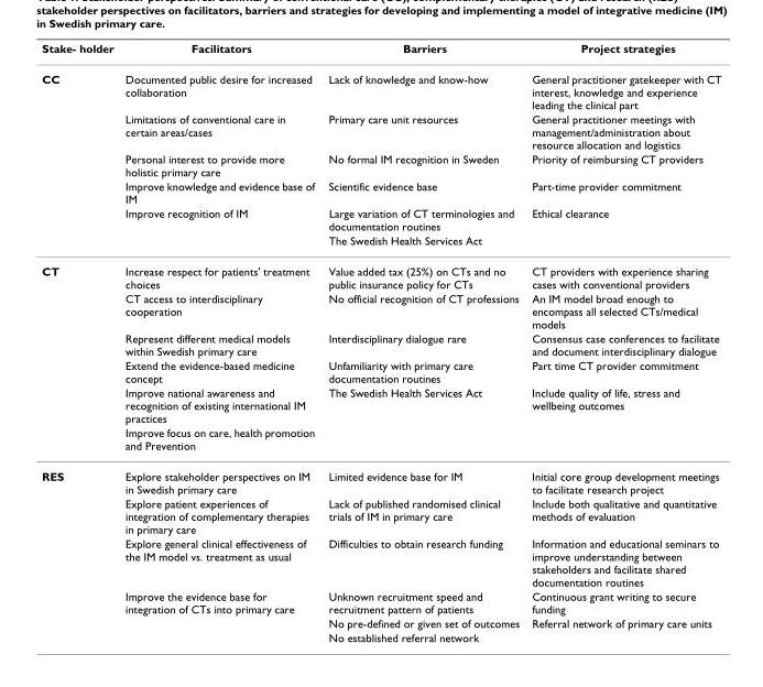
<table><thead><tr><td>Stake- holder</td><td>Facilitators</td><td>Barriers</td><td>Project strategies</td></tr></thead><tbody><tr><td rowspan="6">CC</td><td>Documented public desire for increased collaboration</td><td>Lack of knowledge and know-how</td><td>General practitioner gatekeeper with CT interest, knowledge and experience leading the clinical part</td></tr><tr><td>Limitations of conventional care in certain areas/cases</td><td>Primary care unit resources</td><td>General practitioner meetings with management/administration about resource allocation and logistics</td></tr><tr><td>Personal interest to provide more holistic primary care</td><td>No formal IM recognition in Sweden</td><td>Priority of reimbursing CT providers</td></tr><tr><td>Improve knowledge and evidence base of IM</td><td>Scientific evidence base</td><td>Part-time provider commitment</td></tr><tr><td>Improve recognition of IM</td><td>Large variation of CT terminologies and documentation routines</td><td>Ethical clearance</td></tr><tr><td></td><td>The Swedish Health Services Act</td><td></td></tr><tr><td rowspan="6">CT</td><td>Increase respect for patients&#x27; treatment choices</td><td>Value added tax (25%) on CTs and no public insurance policy for CTs</td><td>CT providers with experience sharing cases with conventional providers</td></tr><tr><td>CT access to interdisciplinary cooperation</td><td>No official recognition of CT professions</td><td>An IM model broad enough to encompass all selected CTs/medical models</td></tr><tr><td>Represent different medical models within Swedish primary care</td><td>Interdisciplinary dialogue rare</td><td>Consensus case conferences to facilitate and document interdisciplinary dialogue</td></tr><tr><td>Extend the evidence-based medicine concept</td><td>Unfamiliarity with primary care documentation routines</td><td>Part time CT provider commitment</td></tr><tr><td>Improve national awareness and recognition of existing international IM practices</td><td>The Swedish Health Services Act</td><td>Include quality of life, stress and wellbeing outcomes</td></tr><tr><td>Improve focus on care, health promotion and Prevention</td><td></td><td></td></tr><tr><td rowspan="6">RES</td><td>Explore stakeholder perspectives on IM in Swedish primary care</td><td>Limited evidence base for IM</td><td>Initial core group development meetings to facilitate research project</td></tr><tr><td>Explore patient experiences of integration of complementary therapies in primary care</td><td>Lack of published randomised clinical trials of IM in primary care</td><td>Include both qualitative and quantitative methods of evaluation</td></tr><tr><td>Explore general clinical effectiveness of the IM model vs. treatment as usual</td><td>Difficulties to obtain research funding</td><td>Information and educational seminars to improve understanding between stakeholders and facilitate shared documentation routines</td></tr><tr><td>Improve the evidence base for integration of CTs into primary care</td><td>Unknown recruitment speed and recruitment pattern of patients</td><td>Continuous grant writing to secure funding</td></tr><tr><td></td><td>No pre-defined or given set of outcomes</td><td>Referral network of primary care units</td></tr><tr><td></td><td>No established referral network</td><td></td></tr></tbody></table>